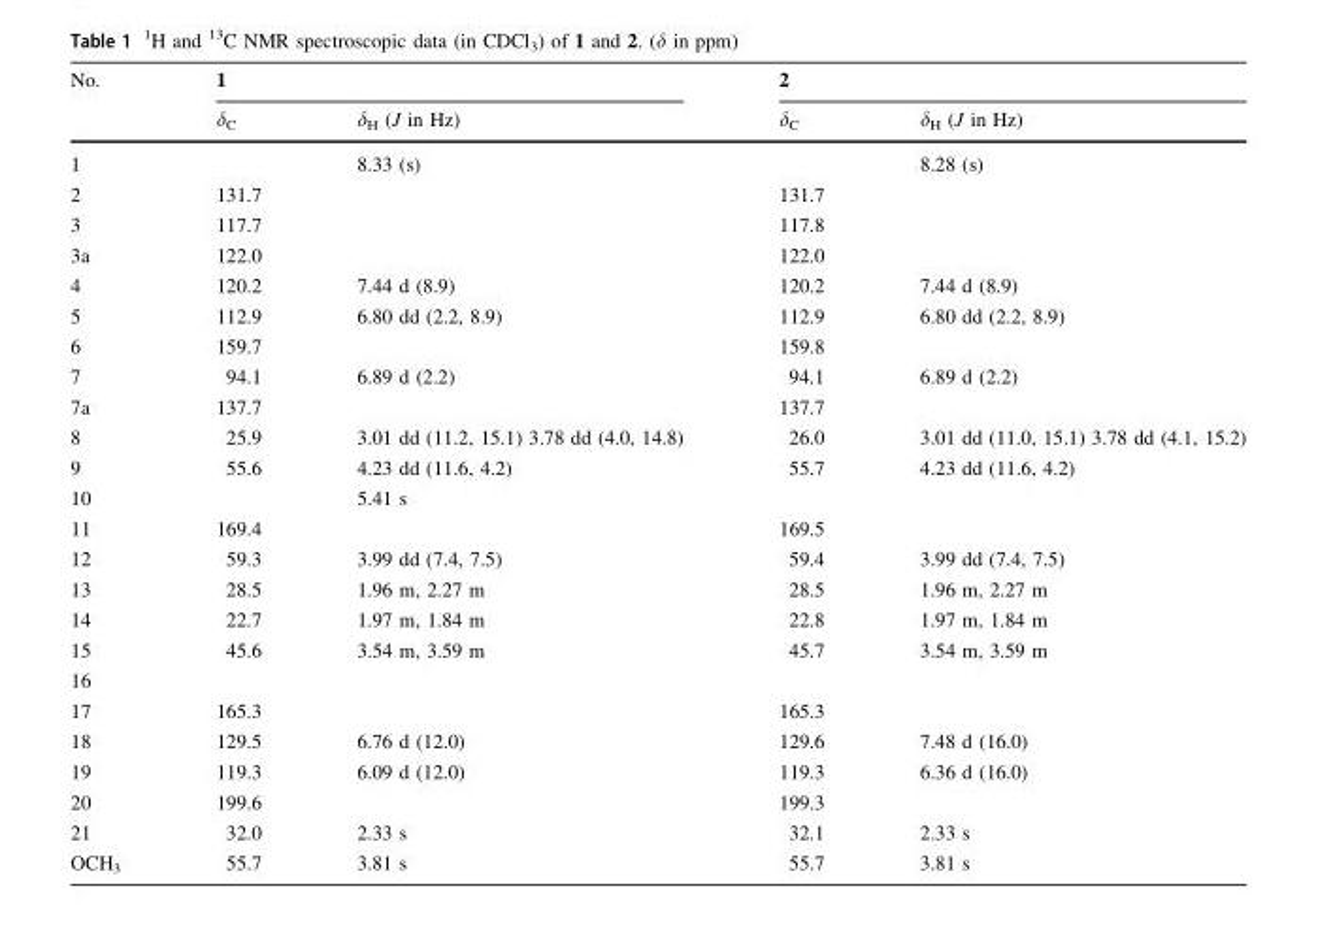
<table><thead><tr><td rowspan="2">No.</td><td colspan="2">1</td><td colspan="2">2</td></tr><tr><td>δ<sub>C</sub></td><td>δ<sub>H</sub> (J in Hz)</td><td>δ<sub>C</sub></td><td>δ<sub>H</sub> (J in Hz)</td></tr></thead><tbody><tr><td>1</td><td></td><td>8.33 (s)</td><td></td><td>8.28 (s)</td></tr><tr><td>2</td><td>131.7</td><td></td><td>131.7</td><td></td></tr><tr><td>3</td><td>117.7</td><td></td><td>117.8</td><td></td></tr><tr><td>3a</td><td>122.0</td><td></td><td>122.0</td><td></td></tr><tr><td>4</td><td>120.2</td><td>7.44 d (8.9)</td><td>120.2</td><td>7.44 d (8.9)</td></tr><tr><td>5</td><td>112.9</td><td>6.80 dd (2.2, 8.9)</td><td>112.9</td><td>6.80 dd (2.2, 8.9)</td></tr><tr><td>6</td><td>159.7</td><td></td><td>159.8</td><td></td></tr><tr><td>7</td><td>94.1</td><td>6.89 d (2.2)</td><td>94.1</td><td>6.89 d (2.2)</td></tr><tr><td>7a</td><td>137.7</td><td></td><td>137.7</td><td></td></tr><tr><td>8</td><td>25.9</td><td>3.01 dd (11.2, 15.1) 3.78 dd (4.0, 14.8)</td><td>26.0</td><td>3.01 dd (11.0, 15.1) 3.78 dd (4.1, 15.2)</td></tr><tr><td>9</td><td>55.6</td><td>4.23 dd (11.6, 4.2)</td><td>55.7</td><td>4.23 dd (11.6, 4.2)</td></tr><tr><td>10</td><td></td><td>5.41 s</td><td></td><td></td></tr><tr><td>11</td><td>169.4</td><td></td><td>169.5</td><td></td></tr><tr><td>12</td><td>59.3</td><td>3.99 dd (7.4, 7.5)</td><td>59.4</td><td>3.99 dd (7.4, 7.5)</td></tr><tr><td>13</td><td>28.5</td><td>1.96 m, 2.27 m</td><td>28.5</td><td>1.96 m, 2.27 m</td></tr><tr><td>14</td><td>22.7</td><td>1.97 m, 1.84 m</td><td>22.8</td><td>1.97 m, 1.84 m</td></tr><tr><td>15</td><td>45.6</td><td>3.54 m, 3.59 m</td><td>45.7</td><td>3.54 m, 3.59 m</td></tr><tr><td colspan="5">16</td></tr><tr><td>17</td><td>165.3</td><td></td><td>165.3</td><td></td></tr><tr><td>18</td><td>129.5</td><td>6.76 d (12.0)</td><td>129.6</td><td>7.48 d (16.0)</td></tr><tr><td>19</td><td>119.3</td><td>6.09 d (12.0)</td><td>119.3</td><td>6.36 d (16.0)</td></tr><tr><td>20</td><td>199.6</td><td></td><td>199.3</td><td></td></tr><tr><td>21</td><td>32.0</td><td>2.33 s</td><td>32.1</td><td>2.33 s</td></tr><tr><td>OCH<sub>3</sub></td><td>55.7</td><td>3.81 s</td><td>55.7</td><td>3.81 s</td></tr></tbody></table>